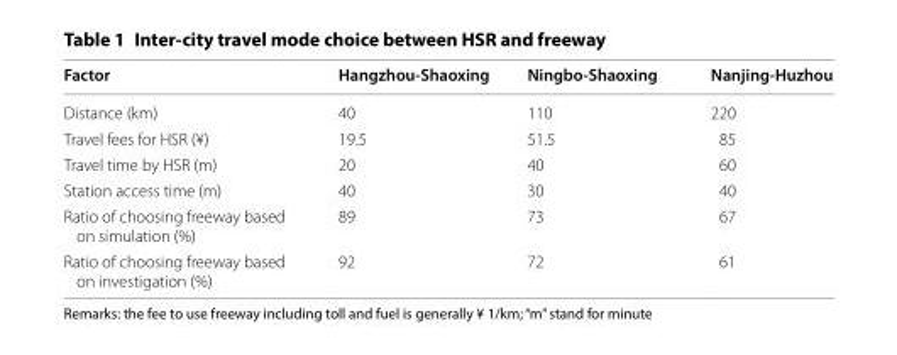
<table><thead><tr><td>Factor</td><td>Hangzhou-Shaoxing</td><td>Ningbo-Shaoxing</td><td>Nanjing-Huzhou</td></tr></thead><tbody><tr><td>Distance (km)</td><td>40</td><td>110</td><td>220</td></tr><tr><td>Travel fees for HSR (¥)</td><td>19.5</td><td>51.5</td><td>85</td></tr><tr><td>Travel time by HSR (m)</td><td>20</td><td>40</td><td>60</td></tr><tr><td>Station access time (m)</td><td>40</td><td>30</td><td>40</td></tr><tr><td>Ratio of choosing freeway based on simulation (%)</td><td>89</td><td>73</td><td>67</td></tr><tr><td>Ratio of choosing freeway based on investigation (%)</td><td>92</td><td>72</td><td>61</td></tr></tbody></table>